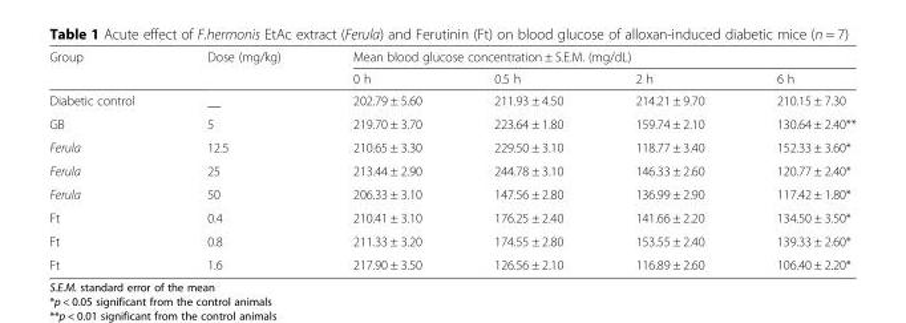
<table><thead><tr><td rowspan="2">Group</td><td rowspan="2">Dose (mg/kg)</td><td colspan="4">Mean blood glucose concentration ± S.E.M. (mg/dL)</td></tr><tr><td>0 h</td><td>0.5 h</td><td>2 h</td><td>6 h</td></tr></thead><tbody><tr><td>Diabetic control</td><td>__</td><td>202.79 ± 5.60</td><td>211.93 ± 4.50</td><td>214.21 ± 9.70</td><td>210.15 ± 7.30</td></tr><tr><td>GB</td><td>5</td><td>219.70 ± 3.70</td><td>223.64 ± 1.80</td><td>159.74 ± 2.10</td><td>130.64 ± 2.40**</td></tr><tr><td>Ferula</td><td>12.5</td><td>210.65 ± 3.30</td><td>229.50 ± 3.10</td><td>118.77 ± 3.40</td><td>152.33 ± 3.60*</td></tr><tr><td>Ferula</td><td>25</td><td>213.44 ± 2.90</td><td>244.78 ± 3.10</td><td>146.33 ± 2.60</td><td>120.77 ± 2.40*</td></tr><tr><td>Ferula</td><td>50</td><td>206.33 ± 3.10</td><td>147.56 ± 2.80</td><td>136.99 ± 2.90</td><td>117.42 ± 1.80*</td></tr><tr><td>Ft</td><td>0.4</td><td>210.41 ± 3.10</td><td>176.25 ± 2.40</td><td>141.66 ± 2.20</td><td>134.50 ± 3.50*</td></tr><tr><td>Ft</td><td>0.8</td><td>211.33 ± 3.20</td><td>174.55 ± 2.80</td><td>153.55 ± 2.40</td><td>139.33 ± 2.60*</td></tr><tr><td>Ft</td><td>1.6</td><td>217.90 ± 3.50</td><td>126.56 ± 2.10</td><td>116.89 ± 2.60</td><td>106.40 ± 2.20*</td></tr></tbody></table>